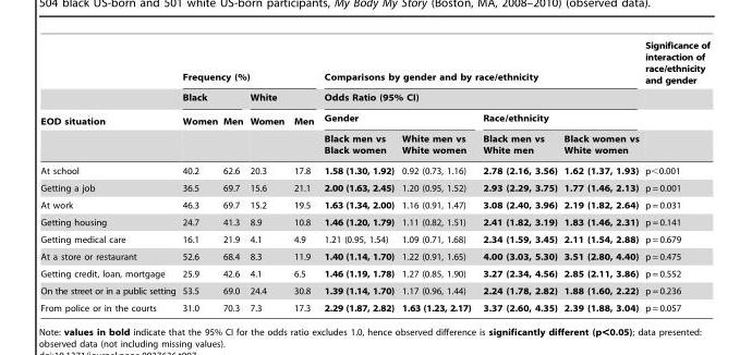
<table><thead><tr><td rowspan="4">EOD situation</td><td colspan="4">Frequency (%)</td><td rowspan="2" colspan="4">Comparisons by gender and by race/ethnicity Odds Ratio (95% CI)</td><td rowspan="4">Significance of interaction of race/ethnicity and gender</td></tr><tr><td colspan="2">Black</td><td colspan="2">White</td></tr><tr><td rowspan="2">Women</td><td rowspan="2">Men</td><td rowspan="2">Women</td><td rowspan="2">Men</td><td colspan="2">Gender</td><td colspan="2">Race/ethnicity</td></tr><tr><td>Black men vs Black women</td><td>White men vs White women</td><td>Black men vs White men</td><td>Black women vs White women</td></tr></thead><tbody><tr><td>At school</td><td>40.2</td><td>62.6</td><td>20.3</td><td>17.8</td><td>1.58 (1.30, 1.92)</td><td>0.92 (0.73, 1.16)</td><td>2.78 (2.16, 3.56)</td><td>1.62 (1.37, 1.93)</td><td>p&lt;0.001</td></tr><tr><td>Getting a job</td><td>36.5</td><td>69.7</td><td>15.6</td><td>21.1</td><td>2.00 (1.63, 2.45)</td><td>1.20 (0.95, 1.52)</td><td>2.93 (2.29, 3.75)</td><td>1.77 (1.46, 2.13)</td><td>p = 0.001</td></tr><tr><td>At work</td><td>46.3</td><td>69.7</td><td>15.2</td><td>19.5</td><td>1.63 (1.34, 2.00)</td><td>1.16 (0.91, 1.47)</td><td>3.08 (2.40, 3.96)</td><td>2.19 (1.82, 2.64)</td><td>p = 0.031</td></tr><tr><td>Getting housing</td><td>24.7</td><td>41.3</td><td>8.9</td><td>10.8</td><td>1.46 (1.20, 1.79)</td><td>1.11 (0.82, 1.51)</td><td>2.41 (1.82, 3.19)</td><td>1.83 (1.46, 2.31)</td><td>p = 0.141</td></tr><tr><td>Getting medical care</td><td>16.1</td><td>21.9</td><td>4.1</td><td>4.9</td><td>1.21 (0.95, 1.54)</td><td>1.09 (0.71, 1.68)</td><td>2.34 (1.59, 3.45)</td><td>2.11 (1.54, 2.88)</td><td>p = 0.679</td></tr><tr><td>At a store or restaurant</td><td>52.6</td><td>68.4</td><td>8.3</td><td>11.9</td><td>1.40 (1.14, 1.70)</td><td>1.22 (0.91, 1.65)</td><td>4.00 (3.03, 5.30)</td><td>3.51 (2.80, 4.40)</td><td>p = 0.475</td></tr><tr><td>Getting credit, loan, mortgage</td><td>25.9</td><td>42.6</td><td>4.1</td><td>6.5</td><td>1.46 (1.19, 1.78)</td><td>1.27 (0.85, 1.90)</td><td>3.27 (2.34, 4.56)</td><td>2.85 (2.11, 3.86)</td><td>p = 0.552</td></tr><tr><td>On the street or in a public setting</td><td>53.5</td><td>69.0</td><td>24.4</td><td>30.8</td><td>1.39 (1.14, 1.70)</td><td>1.17 (0.96, 1.44)</td><td>2.24 (1.78, 2.82)</td><td>1.88 (1.60, 2.22)</td><td>p = 0.236</td></tr><tr><td>From police or in the courts</td><td>31.0</td><td>70.3</td><td>7.3</td><td>17.3</td><td>2.29 (1.87, 2.82)</td><td>1.63 (1.23, 2.17)</td><td>3.37 (2.60, 4.35)</td><td>2.39 (1.88, 3.04)</td><td>p = 0.057</td></tr></tbody></table>